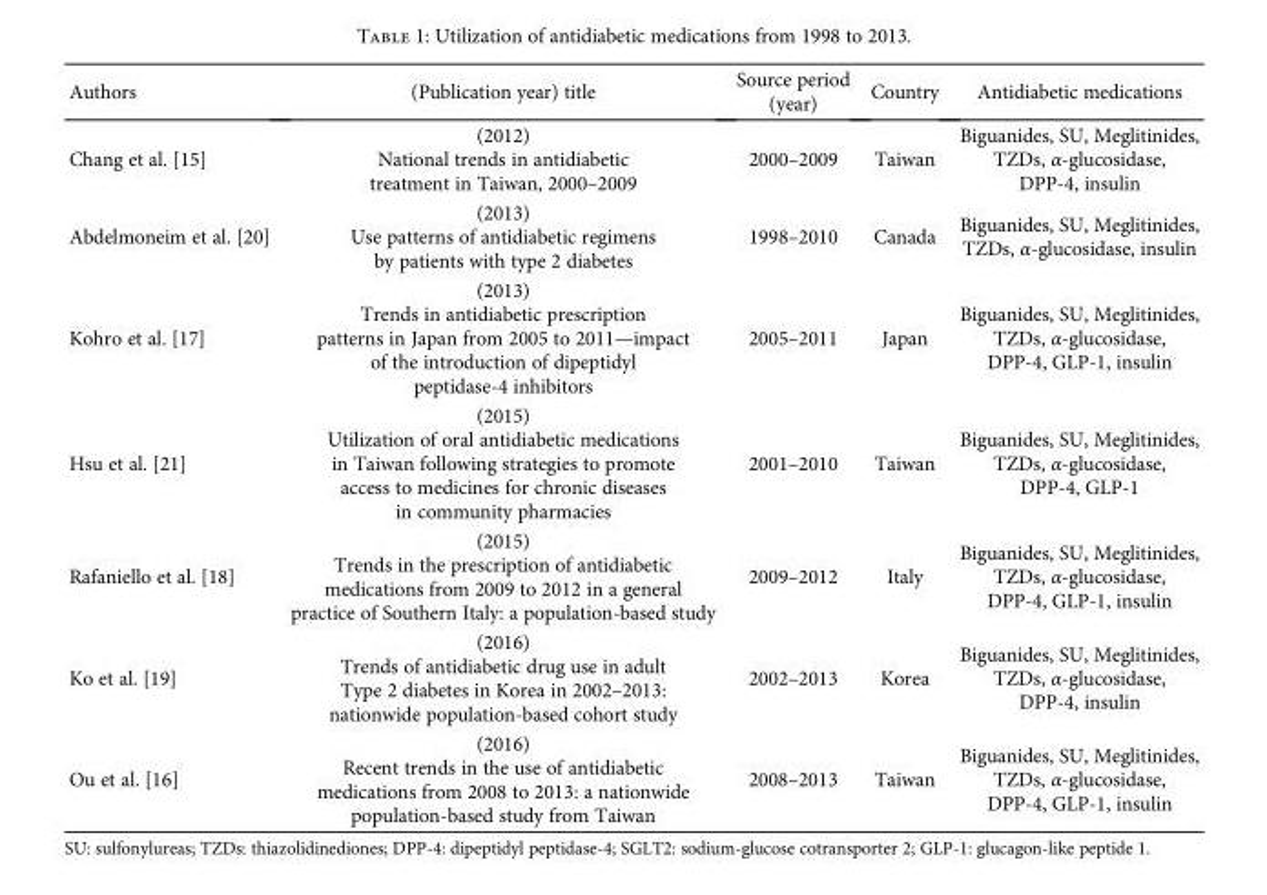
<table><thead><tr><td>Authors</td><td>(Publication year) title</td><td>Source period (year)</td><td>Country</td><td>Antidiabetic medications</td></tr></thead><tbody><tr><td>Chang et al. [15]</td><td>(2012) National trends in antidiabetic treatment in Taiwan, 2000–2009</td><td>2000–2009</td><td>Taiwan</td><td>Biguanides, SU, Meglitinides, TZDs, α-glucosidase, DPP-4, insulin</td></tr><tr><td>Abdelmoneim et al. [20]</td><td>(2013) Use patterns of antidiabetic regimens by patients with type 2 diabetes</td><td>1998–2010</td><td>Canada</td><td>Biguanides, SU, Meglitinides, TZDs, α-glucosidase, insulin</td></tr><tr><td>Kohro et al. [17]</td><td>(2013) Trends in antidiabetic prescription patterns in Japan from 2005 to 2011—impact of the introduction of dipeptidyl peptidase-4 inhibitors</td><td>2005–2011</td><td>Japan</td><td>Biguanides, SU, Meglitinides, TZDs, α-glucosidase, DPP-4, GLP-1, insulin</td></tr><tr><td>Hsu et al. [21]</td><td>(2015) Utilization of oral antidiabetic medications in Taiwan following strategies to promote access to medicines for chronic diseases in community pharmacies</td><td>2001–2010</td><td>Taiwan</td><td>Biguanides, SU, Meglitinides, TZDs, α-glucosidase, DPP-4, GLP-1</td></tr><tr><td>Rafaniello et al. [18]</td><td>(2015) Trends in the prescription of antidiabetic medications from 2009 to 2012 in a general practice of Southern Italy: a population-based study</td><td>2009–2012</td><td>Italy</td><td>Biguanides, SU, Meglitinides, TZDs, α-glucosidase, DPP-4, GLP-1, insulin</td></tr><tr><td>Ko et al. [19]</td><td>(2016) Trends of antidiabetic drug use in adult Type 2 diabetes in Korea in 2002–2013: nationwide population-based cohort study</td><td>2002–2013</td><td>Korea</td><td>Biguanides, SU, Meglitinides, TZDs, α-glucosidase, DPP-4, insulin</td></tr><tr><td>Ou et al. [16]</td><td>(2016) Recent trends in the use of antidiabetic medications from 2008 to 2013: a nationwide population-based study from Taiwan</td><td>2008–2013</td><td>Taiwan</td><td>Biguanides, SU, Meglitinides, TZDs, α-glucosidase, DPP-4, GLP-1, insulin</td></tr></tbody></table>